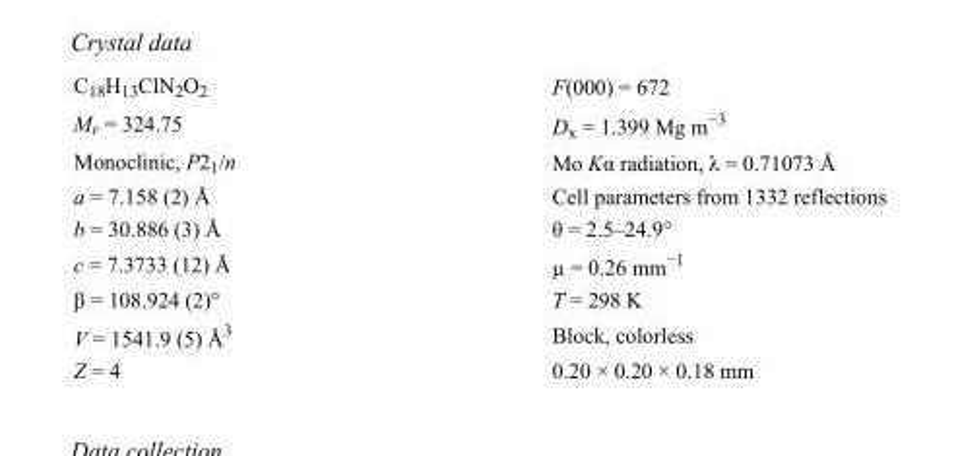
<table><tbody><tr><td>C<sub>18</sub>H<sub>13</sub>ClN<sub>2</sub>O<sub>2</sub></td><td>F(000) = 672</td></tr><tr><td>M<sub>r</sub> = 324.75</td><td>D<sub>x</sub> = 1.399 Mg m<sup>−3</sup></td></tr><tr><td>Monoclinic, P2<sub>1</sub>/n</td><td>Mo Kα radiation, λ = 0.71073 Å</td></tr><tr><td>a = 7.158 (2) Å</td><td>Cell parameters from 1332 reflections</td></tr><tr><td>b = 30.886 (3) Å</td><td>θ = 2.5–24.9°</td></tr><tr><td>c = 7.3733 (12) Å</td><td>µ = 0.26 mm<sup>−1</sup></td></tr><tr><td>β = 108.924 (2)°</td><td>T = 298 K</td></tr><tr><td>V = 1541.9 (5) Å<sup>3</sup></td><td>Block, colorless</td></tr><tr><td>Z = 4</td><td>0.20 × 0.20 × 0.18 mm</td></tr></tbody></table>